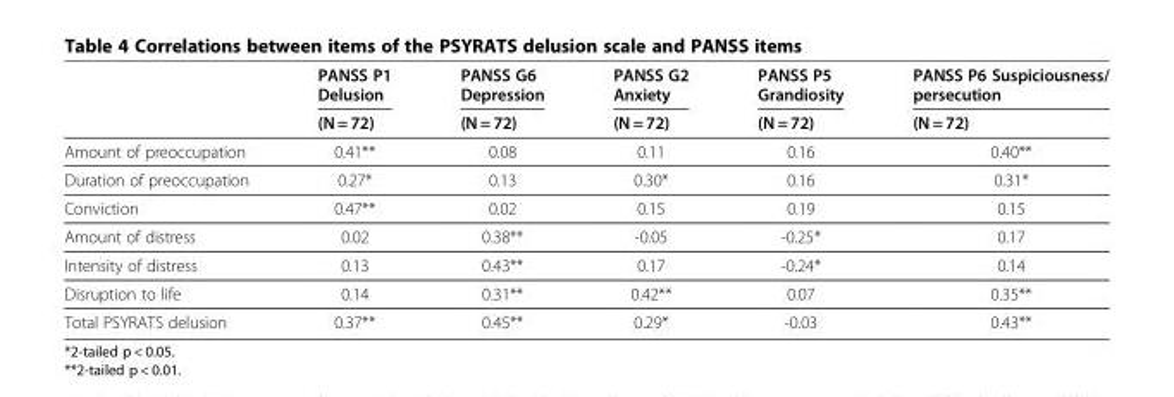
<table><thead><tr><td rowspan="2"></td><td rowspan="2">PANSS P1 Delusion (N = 72)</td><td rowspan="2">PANSS G6 Depression (N = 72)</td><td rowspan="2">PANSS G2 Anxiety (N = 72)</td><td rowspan="2">PANSS P5 Grandiosity (N = 72)</td><td rowspan="2">PANSS P6 Suspiciousness/ persecution (N = 72)</td></tr><tr></tr></thead><tbody><tr><td>Amount of preoccupation</td><td>0.41**</td><td>0.08</td><td>0.11</td><td>0.16</td><td>0.40**</td></tr><tr><td>Duration of preoccupation</td><td>0.27*</td><td>0.13</td><td>0.30*</td><td>0.16</td><td>0.31*</td></tr><tr><td>Conviction</td><td>0.47**</td><td>0.02</td><td>0.15</td><td>0.19</td><td>0.15</td></tr><tr><td>Amount of distress</td><td>0.02</td><td>0.38**</td><td>-0.05</td><td>-0.25*</td><td>0.17</td></tr><tr><td>Intensity of distress</td><td>0.13</td><td>0.43**</td><td>0.17</td><td>-0.24*</td><td>0.14</td></tr><tr><td>Disruption to life</td><td>0.14</td><td>0.31**</td><td>0.42**</td><td>0.07</td><td>0.35**</td></tr><tr><td>Total PSYRATS delusion</td><td>0.37**</td><td>0.45**</td><td>0.29*</td><td>-0.03</td><td>0.43**</td></tr></tbody></table>